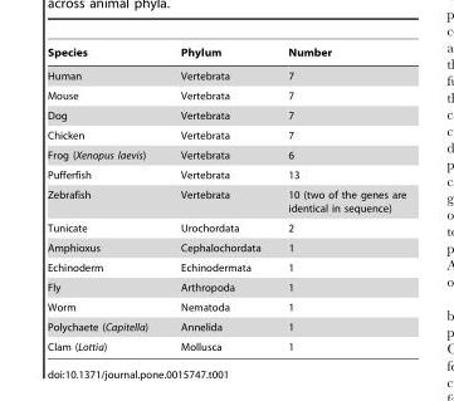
<table><thead><tr><td>Species</td><td>Phylum</td><td>Number</td></tr></thead><tbody><tr><td>Human</td><td>Vertebrata</td><td>7</td></tr><tr><td>Mouse</td><td>Vertebrata</td><td>7</td></tr><tr><td>Dog</td><td>Vertebrata</td><td>7</td></tr><tr><td>Chicken</td><td>Vertebrata</td><td>7</td></tr><tr><td>Frog (Xenopus laevis)</td><td>Vertebrata</td><td>6</td></tr><tr><td>Pufferfish</td><td>Vertebrata</td><td>13</td></tr><tr><td>Zebrafish</td><td>Vertebrata</td><td>10 (two of the genes are identical in sequence)</td></tr><tr><td>Tunicate</td><td>Urochordata</td><td>2</td></tr><tr><td>Amphioxus</td><td>Cephalochordata</td><td>1</td></tr><tr><td>Echinoderm</td><td>Echinodermata</td><td>1</td></tr><tr><td>Fly</td><td>Arthropoda</td><td>1</td></tr><tr><td>Worm</td><td>Nematoda</td><td>1</td></tr><tr><td>Polychaete (Capitella)</td><td>Annelida</td><td>1</td></tr><tr><td>Clam (Lottia)</td><td>Mollusca</td><td>1</td></tr></tbody></table>